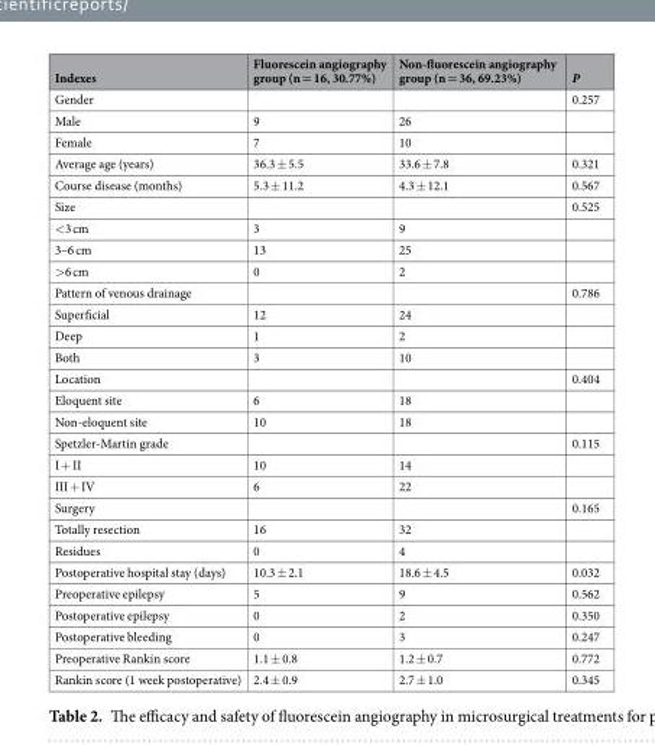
<table><thead><tr><td>Indexes</td><td>Fluorescein angiography group (n = 16, 30.77%)</td><td>Non-fluorescein angiography group (n = 36, 69.23%)</td><td>P</td></tr></thead><tbody><tr><td>Gender</td><td></td><td></td><td>0.257</td></tr><tr><td>Male</td><td>9</td><td>26</td><td></td></tr><tr><td>Female</td><td>7</td><td>10</td><td></td></tr><tr><td>Average age (years)</td><td>36.3 ± 5.5</td><td>33.6 ± 7.8</td><td>0.321</td></tr><tr><td>Course disease (months)</td><td>5.3 ± 11.2</td><td>4.3 ± 12.1</td><td>0.567</td></tr><tr><td>Size</td><td></td><td></td><td>0.525</td></tr><tr><td>&lt;3 cm</td><td>3</td><td>9</td><td></td></tr><tr><td>3–6 cm</td><td>13</td><td>25</td><td></td></tr><tr><td>&gt;6 cm</td><td>0</td><td>2</td><td></td></tr><tr><td>Pattern of venous drainage</td><td></td><td></td><td>0.786</td></tr><tr><td>Superficial</td><td>12</td><td>24</td><td></td></tr><tr><td>Deep</td><td>1</td><td>2</td><td></td></tr><tr><td>Both</td><td>3</td><td>10</td><td></td></tr><tr><td>Location</td><td></td><td></td><td>0.404</td></tr><tr><td>Eloquent site</td><td>6</td><td>18</td><td></td></tr><tr><td>Non-eloquent site</td><td>10</td><td>18</td><td></td></tr><tr><td>Spetzler-Martin grade</td><td></td><td></td><td>0.115</td></tr><tr><td>I + II</td><td>10</td><td>14</td><td></td></tr><tr><td>III + IV</td><td>6</td><td>22</td><td></td></tr><tr><td>Surgery</td><td></td><td></td><td>0.165</td></tr><tr><td>Totally resection</td><td>16</td><td>32</td><td></td></tr><tr><td>Residues</td><td>0</td><td>4</td><td></td></tr><tr><td>Postoperative hospital stay (days)</td><td>10.3 ± 2.1</td><td>18.6 ± 4.5</td><td>0.032</td></tr><tr><td>Preoperative epilepsy</td><td>5</td><td>9</td><td>0.562</td></tr><tr><td>Postoperative epilepsy</td><td>0</td><td>2</td><td>0.350</td></tr><tr><td>Postoperative bleeding</td><td>0</td><td>3</td><td>0.247</td></tr><tr><td>Preoperative Rankin score</td><td>1.1 ± 0.8</td><td>1.2 ± 0.7</td><td>0.772</td></tr><tr><td>Rankin score (1 week postoperative)</td><td>2.4 ± 0.9</td><td>2.7 ± 1.0</td><td>0.345</td></tr></tbody></table>